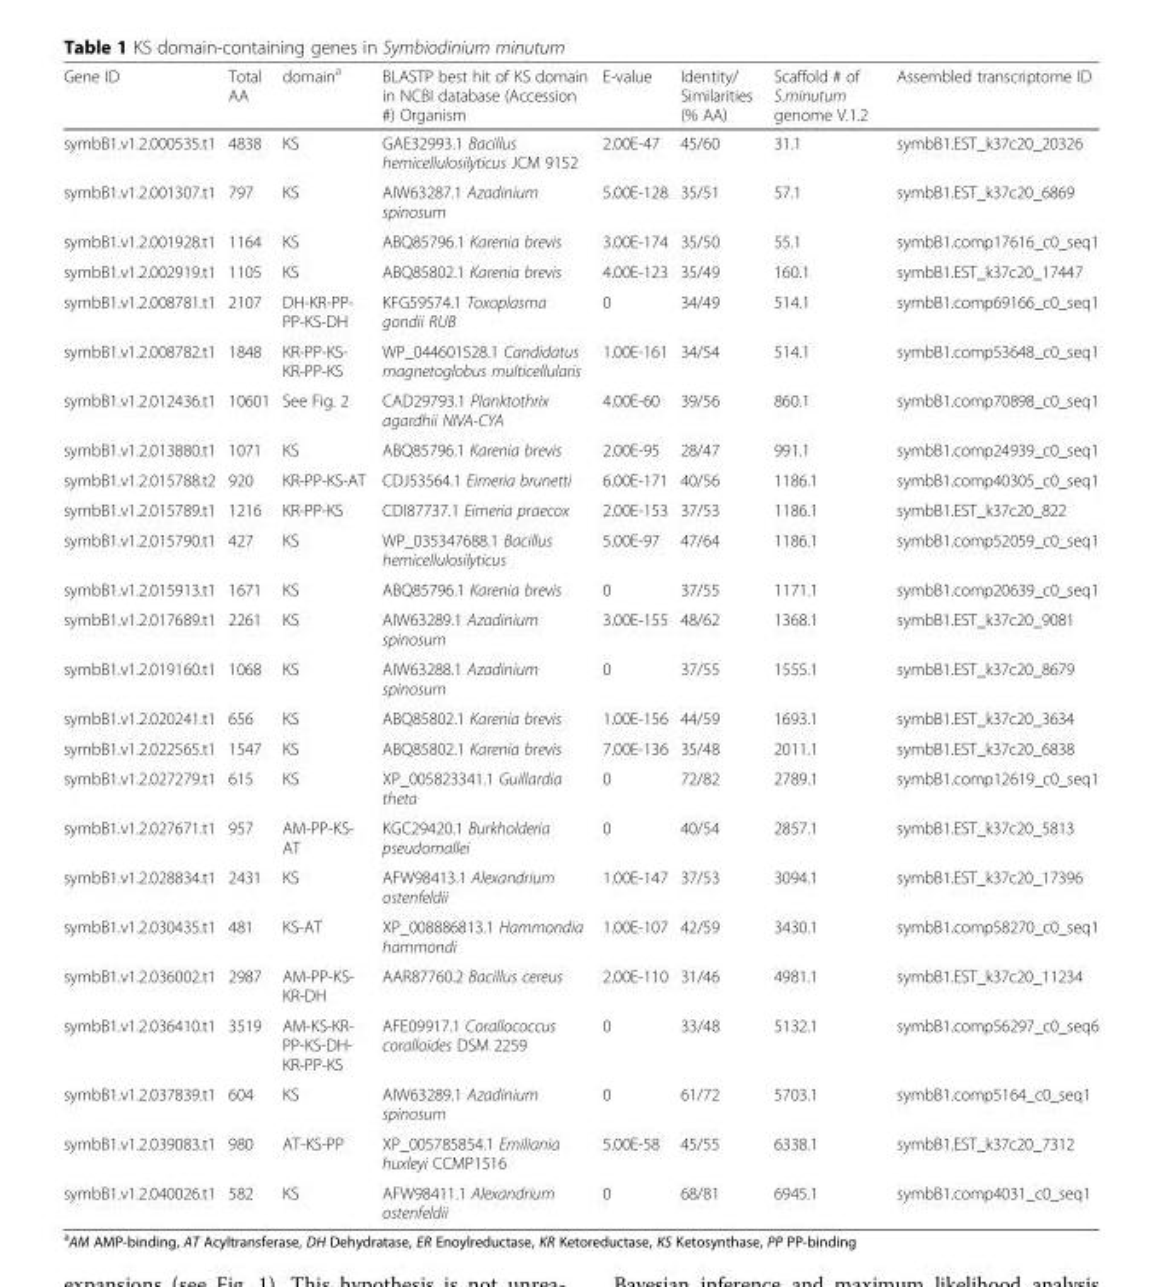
<table><thead><tr><td>Gene ID</td><td>Total AA</td><td>domain<sup>a</sup></td><td>BLASTP best hit of KS domain in NCBI database (Accession #) Organism</td><td>E-value</td><td>Identity/ Similarities (% AA)</td><td>Scaffold # of S.minutum genome V.1.2</td><td>Assembled transcriptome ID</td></tr></thead><tbody><tr><td>symbB1.v1.2.000535.t1</td><td>4838</td><td>KS</td><td>GAE32993.1 Bacillus hemicellulosilyticus JCM 9152</td><td>2.00E-47</td><td>45/60</td><td>31.1</td><td>symbB1.EST_k37c20_20326</td></tr><tr><td>symbB1.v1.2.001307.t1</td><td>797</td><td>KS</td><td>AIW63287.1 Azadinium spinosum</td><td>5.00E-128</td><td>35/51</td><td>57.1</td><td>symbB1.EST_k37c20_6869</td></tr><tr><td>symbB1.v1.2.001928.t1</td><td>1164</td><td>KS</td><td>ABQ85796.1 Karenia brevis</td><td>3.00E-174</td><td>35/50</td><td>55.1</td><td>symbB1.comp17616_c0_seq1</td></tr><tr><td>symbB1.v1.2.002919.t1</td><td>1105</td><td>KS</td><td>ABQ85802.1 Karenia brevis</td><td>4.00E-123</td><td>35/49</td><td>160.1</td><td>symbB1.EST_k37c20_17447</td></tr><tr><td>symbB1.v1.2.008781.t1</td><td>2107</td><td>DH-KR-PP- PP-KS-DH</td><td>KFG59574.1 Toxoplasma gondii RUB</td><td>0</td><td>34/49</td><td>514.1</td><td>symbB1.comp69166_c0_seq1</td></tr><tr><td>symbB1.v1.2.008782.t1</td><td>1848</td><td>KR-PP-KS- KR-PP-KS</td><td>WP_044601528.1 Candidatus magnetoglobus multicellularis</td><td>1.00E-161</td><td>34/54</td><td>514.1</td><td>symbB1.comp53648_c0_seq1</td></tr><tr><td>symbB1.v1.2.012436.t1</td><td>10601</td><td>See Fig. 2</td><td>CAD29793.1 Planktothrix agardhii NIVA-CYA</td><td>4.00E-60</td><td>39/56</td><td>860.1</td><td>symbB1.comp70898_c0_seq1</td></tr><tr><td>symbB1.v1.2.013880.t1</td><td>1071</td><td>KS</td><td>ABQ85796.1 Karenia brevis</td><td>2.00E-95</td><td>28/47</td><td>991.1</td><td>symbB1.comp24939_c0_seq1</td></tr><tr><td>symbB1.v1.2.015788.t2</td><td>920</td><td>KR-PP-KS-AT</td><td>CDJ53564.1 Eimeria brunetti</td><td>6.00E-171</td><td>40/56</td><td>1186.1</td><td>symbB1.comp40305_c0_seq1</td></tr><tr><td>symbB1.v1.2.015789.t1</td><td>1216</td><td>KR-PP-KS</td><td>CDI87737.1 Eimeria praecox</td><td>2.00E-153</td><td>37/53</td><td>1186.1</td><td>symbB1.EST_k37c20_822</td></tr><tr><td>symbB1.v1.2.015790.t1</td><td>427</td><td>KS</td><td>WP_035347688.1 Bacillus hemicellulosilyticus</td><td>5.00E-97</td><td>47/64</td><td>1186.1</td><td>symbB1.comp52059_c0_seq1</td></tr><tr><td>symbB1.v1.2.015913.t1</td><td>1671</td><td>KS</td><td>ABQ85796.1 Karenia brevis</td><td>0</td><td>37/55</td><td>1171.1</td><td>symbB1.comp20639_c0_seq1</td></tr><tr><td>symbB1.v1.2.017689.t1</td><td>2261</td><td>KS</td><td>AIW63289.1 Azadinium spinosum</td><td>3.00E-155</td><td>48/62</td><td>1368.1</td><td>symbB1.EST_k37c20_9081</td></tr><tr><td>symbB1.v1.2.019160.t1</td><td>1068</td><td>KS</td><td>AIW63288.1 Azadinium spinosum</td><td>0</td><td>37/55</td><td>1555.1</td><td>symbB1.EST_k37c20_8679</td></tr><tr><td>symbB1.v1.2.020241.t1</td><td>656</td><td>KS</td><td>ABQ85802.1 Karenia brevis</td><td>1.00E-156</td><td>44/59</td><td>1693.1</td><td>symbB1.EST_k37c20_3634</td></tr><tr><td>symbB1.v1.2.022565.t1</td><td>1547</td><td>KS</td><td>ABQ85802.1 Karenia brevis</td><td>7.00E-136</td><td>35/48</td><td>2011.1</td><td>symbB1.EST_k37c20_6838</td></tr><tr><td>symbB1.v1.2.027279.t1</td><td>615</td><td>KS</td><td>XP_005823341.1 Guillardia theta</td><td>0</td><td>72/82</td><td>2789.1</td><td>symbB1.comp12619_c0_seq1</td></tr><tr><td>symbB1.v1.2.027671.t1</td><td>957</td><td>AM-PP-KS- AT</td><td>KGC29420.1 Burkholderia pseudomallei</td><td>0</td><td>40/54</td><td>2857.1</td><td>symbB1.EST_k37c20_5813</td></tr><tr><td>symbB1.v1.2.028834.t1</td><td>2431</td><td>KS</td><td>AFW98413.1 Alexandrium ostenfeldii</td><td>1.00E-147</td><td>37/53</td><td>3094.1</td><td>symbB1.EST_k37c20_17396</td></tr><tr><td>symbB1.v1.2.030435.t1</td><td>481</td><td>KS-AT</td><td>XP_008886813.1 Hammondia hammondi</td><td>1.00E-107</td><td>42/59</td><td>3430.1</td><td>symbB1.comp58270_c0_seq1</td></tr><tr><td>symbB1.v1.2.036002.t1</td><td>2987</td><td>AM-PP-KS- KR-DH</td><td>AAR87760.2 Bacillus cereus</td><td>2.00E-110</td><td>31/46</td><td>4981.1</td><td>symbB1.EST_k37c20_11234</td></tr><tr><td>symbB1.v1.2.036410.t1</td><td>3519</td><td>AM-KS-KR- PP-KS-DH- KR-PP-KS</td><td>AFE09917.1 Corallococcus coralloides DSM 2259</td><td>0</td><td>33/48</td><td>5132.1</td><td>symbB1.comp56297_c0_seq6</td></tr><tr><td>symbB1.v1.2.037839.t1</td><td>604</td><td>KS</td><td>AIW63289.1 Azadinium spinosum</td><td>0</td><td>61/72</td><td>5703.1</td><td>symbB1.comp5164_c0_seq1</td></tr><tr><td>symbB1.v1.2.039083.t1</td><td>980</td><td>AT-KS-PP</td><td>XP_005785854.1 Emiliania huxleyi CCMP1516</td><td>5.00E-58</td><td>45/55</td><td>6338.1</td><td>symbB1.EST_k37c20_7312</td></tr><tr><td>symbB1.v1.2.040026.t1</td><td>582</td><td>KS</td><td>AFW98411.1 Alexandrium ostenfeldii</td><td>0</td><td>68/81</td><td>6945.1</td><td>symbB1.comp4031_c0_seq1</td></tr></tbody></table>